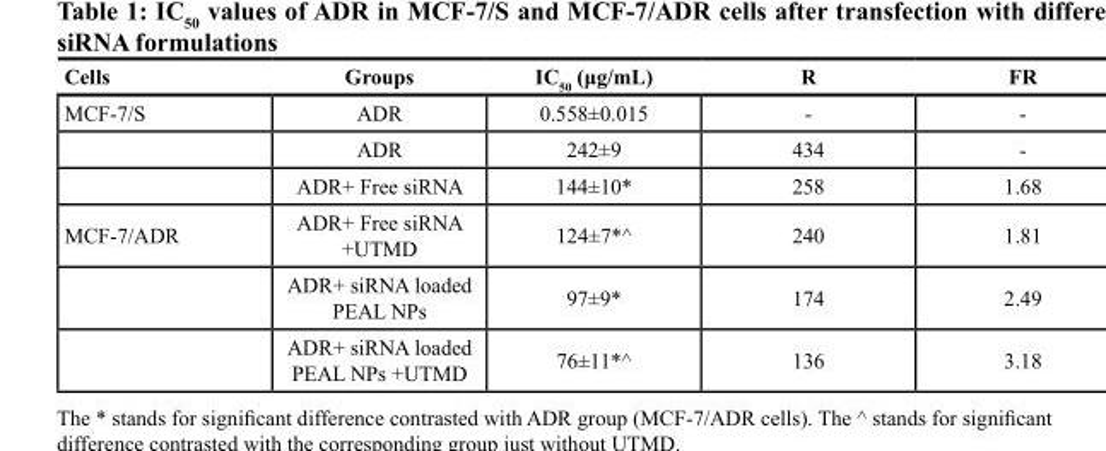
<table><thead><tr><td>Cells</td><td>Groups</td><td>IC<sub>50</sub> (μg/mL)</td><td>R</td><td>FR</td></tr></thead><tbody><tr><td rowspan="3">MCF-7/S</td><td>ADR</td><td>0.558±0.015</td><td>-</td><td>-</td></tr><tr><td>ADR</td><td>242±9</td><td>434</td><td>-</td></tr><tr><td>ADR+ Free siRNA</td><td>144±10*</td><td>258</td><td>1.68</td></tr><tr><td rowspan="3">MCF-7/ADR</td><td>ADR+ Free siRNA +UTMD</td><td>124±7*^</td><td>240</td><td>1.81</td></tr><tr><td>ADR+ siRNA loaded PEAL NPs</td><td>97±9*</td><td>174</td><td>2.49</td></tr><tr><td>ADR+ siRNA loaded PEAL NPs +UTMD</td><td>76±11*^</td><td>136</td><td>3.18</td></tr></tbody></table>